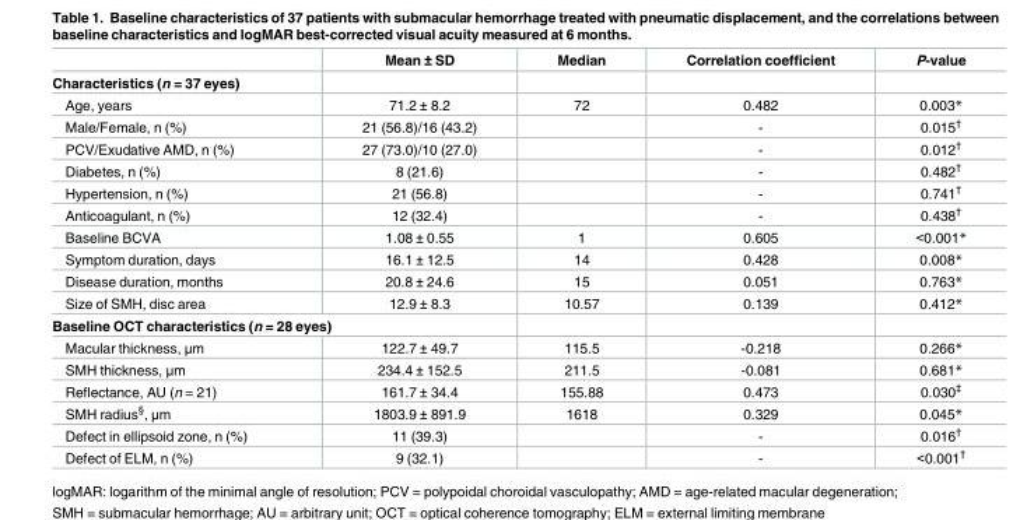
<table><thead><tr><td></td><td>Mean ± SD</td><td>Median</td><td>Correlation coefficient</td><td>P-value</td></tr></thead><tbody><tr><td colspan="5">Characteristics (n = 37 eyes)</td></tr><tr><td>Age, years</td><td>71.2 ± 8.2</td><td>72</td><td>0.482</td><td>0.003*</td></tr><tr><td>Male/Female, n (%)</td><td>21 (56.8)/16 (43.2)</td><td></td><td>-</td><td>0.015<sup>†</sup></td></tr><tr><td>PCV/Exudative AMD, n (%)</td><td>27 (73.0)/10 (27.0)</td><td></td><td>-</td><td>0.012<sup>†</sup></td></tr><tr><td>Diabetes, n (%)</td><td>8 (21.6)</td><td></td><td>-</td><td>0.482<sup>†</sup></td></tr><tr><td>Hypertension, n (%)</td><td>21 (56.8)</td><td></td><td>-</td><td>0.741<sup>†</sup></td></tr><tr><td>Anticoagulant, n (%)</td><td>12 (32.4)</td><td></td><td>-</td><td>0.438<sup>†</sup></td></tr><tr><td>Baseline BCVA</td><td>1.08 ± 0.55</td><td>1</td><td>0.605</td><td>&lt;0.001*</td></tr><tr><td>Symptom duration, days</td><td>16.1 ± 12.5</td><td>14</td><td>0.428</td><td>0.008*</td></tr><tr><td>Disease duration, months</td><td>20.8 ± 24.6</td><td>15</td><td>0.051</td><td>0.763*</td></tr><tr><td>Size of SMH, disc area</td><td>12.9 ± 8.3</td><td>10.57</td><td>0.139</td><td>0.412*</td></tr><tr><td colspan="5">Baseline OCT characteristics (n = 28 eyes)</td></tr><tr><td>Macular thickness, μm</td><td>122.7 ± 49.7</td><td>115.5</td><td>-0.218</td><td>0.266*</td></tr><tr><td>SMH thickness, μm</td><td>234.4 ± 152.5</td><td>211.5</td><td>-0.081</td><td>0.681*</td></tr><tr><td>Reflectance, AU (n = 21)</td><td>161.7 ± 34.4</td><td>155.88</td><td>0.473</td><td>0.030<sup>‡</sup></td></tr><tr><td>SMH radius<sup>§</sup>, μm</td><td>1803.9 ± 891.9</td><td>1618</td><td>0.329</td><td>0.045*</td></tr><tr><td>Defect in ellipsoid zone, n (%)</td><td>11 (39.3)</td><td></td><td>-</td><td>0.016<sup>†</sup></td></tr><tr><td>Defect of ELM, n (%)</td><td>9 (32.1)</td><td></td><td>-</td><td>&lt;0.001<sup>†</sup></td></tr></tbody></table>